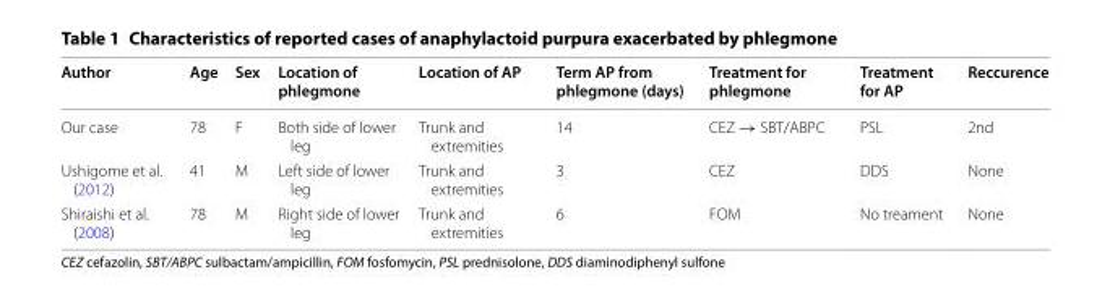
<table><thead><tr><td>Author</td><td>Age</td><td>Sex</td><td>Location of phlegmone</td><td>Location of AP</td><td>Term AP from phlegmone (days)</td><td>Treatment for phlegmone</td><td>Treatment for AP</td><td>Reccurence</td></tr></thead><tbody><tr><td>Our case</td><td>78</td><td>F</td><td>Both side of lower leg</td><td>Trunk and extremities</td><td>14</td><td>CEZ → SBT/ABPC</td><td>PSL</td><td>2nd</td></tr><tr><td>Ushigome et al. (2012)</td><td>41</td><td>M</td><td>Left side of lower leg</td><td>Trunk and extremities</td><td>3</td><td>CEZ</td><td>DDS</td><td>None</td></tr><tr><td>Shiraishi et al. (2008)</td><td>78</td><td>M</td><td>Right side of lower leg</td><td>Trunk and extremities</td><td>6</td><td>FOM</td><td>No treament</td><td>None</td></tr></tbody></table>